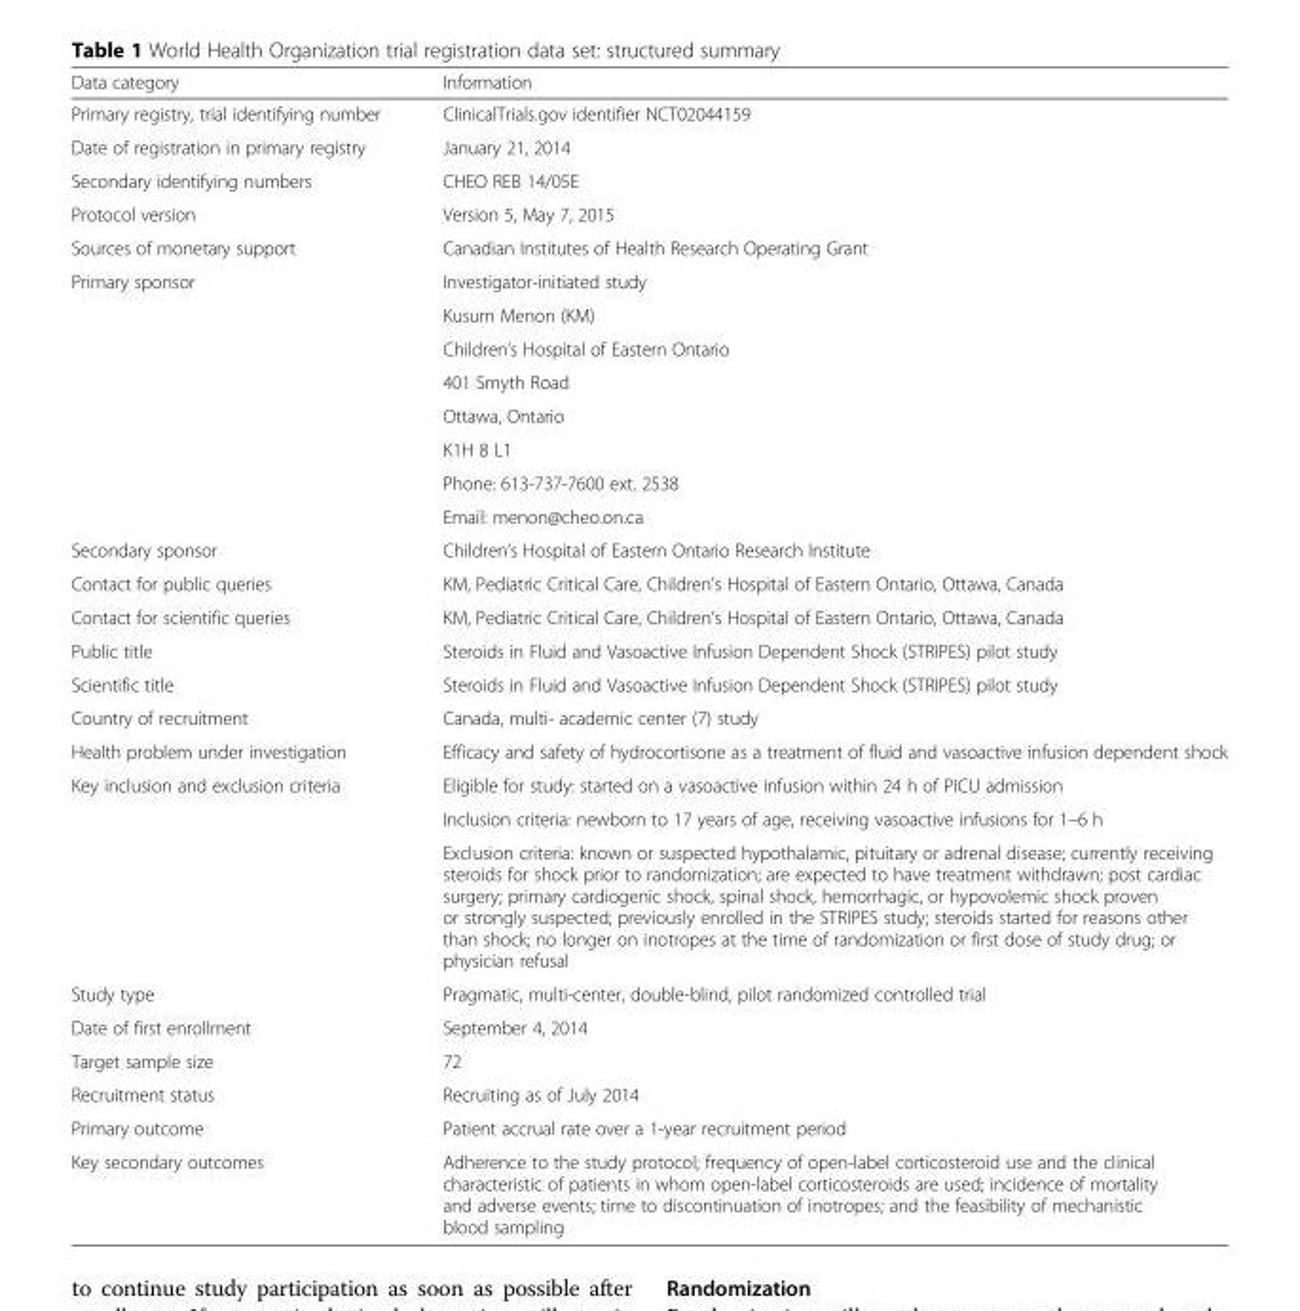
<table><thead><tr><td>Data category</td><td>Information</td></tr></thead><tbody><tr><td>Primary registry, trial identifying number</td><td>ClinicalTrials.gov identifier NCT02044159</td></tr><tr><td>Date of registration in primary registry</td><td>January 21, 2014</td></tr><tr><td>Secondary identifying numbers</td><td>CHEO REB 14/05E</td></tr><tr><td>Protocol version</td><td>Version 5, May 7, 2015</td></tr><tr><td>Sources of monetary support</td><td>Canadian Institutes of Health Research Operating Grant</td></tr><tr><td rowspan="8">Primary sponsor</td><td>Investigator-initiated study</td></tr><tr><td>Kusum Menon (KM)</td></tr><tr><td>Children’s Hospital of Eastern Ontario</td></tr><tr><td>401 Smyth Road</td></tr><tr><td>Ottawa, Ontario</td></tr><tr><td>K1H 8 L1</td></tr><tr><td>Phone: 613-737-7600 ext. 2538</td></tr><tr><td>Email: menon@cheo.on.ca</td></tr><tr><td>Secondary sponsor</td><td>Children’s Hospital of Eastern Ontario Research Institute</td></tr><tr><td>Contact for public queries</td><td>KM, Pediatric Critical Care, Children’s Hospital of Eastern Ontario, Ottawa, Canada</td></tr><tr><td>Contact for scientific queries</td><td>KM, Pediatric Critical Care, Children’s Hospital of Eastern Ontario, Ottawa, Canada</td></tr><tr><td>Public title</td><td>Steroids in Fluid and Vasoactive Infusion Dependent Shock (STRIPES) pilot study</td></tr><tr><td>Scientific title</td><td>Steroids in Fluid and Vasoactive Infusion Dependent Shock (STRIPES) pilot study</td></tr><tr><td>Country of recruitment</td><td>Canada, multi- academic center (7) study</td></tr><tr><td>Health problem under investigation</td><td>Efficacy and safety of hydrocortisone as a treatment of fluid and vasoactive infusion dependent shock</td></tr><tr><td rowspan="3">Key inclusion and exclusion criteria</td><td>Eligible for study: started on a vasoactive infusion within 24 h of PICU admission</td></tr><tr><td>Inclusion criteria: newborn to 17 years of age, receiving vasoactive infusions for 1–6 h</td></tr><tr><td>Exclusion criteria: known or suspected hypothalamic, pituitary or adrenal disease; currently receiving steroids for shock prior to randomization; are expected to have treatment withdrawn; post cardiac surgery; primary cardiogenic shock, spinal shock, hemorrhagic, or hypovolemic shock proven or strongly suspected; previously enrolled in the STRIPES study; steroids started for reasons other than shock; no longer on inotropes at the time of randomization or first dose of study drug; or physician refusal</td></tr><tr><td>Study type</td><td>Pragmatic, multi-center, double-blind, pilot randomized controlled trial</td></tr><tr><td>Date of first enrollment</td><td>September 4, 2014</td></tr><tr><td>Target sample size</td><td>72</td></tr><tr><td>Recruitment status</td><td>Recruiting as of July 2014</td></tr><tr><td>Primary outcome</td><td>Patient accrual rate over a 1-year recruitment period</td></tr><tr><td>Key secondary outcomes</td><td>Adherence to the study protocol; frequency of open-label corticosteroid use and the clinical characteristic of patients in whom open-label corticosteroids are used; incidence of mortality and adverse events; time to discontinuation of inotropes; and the feasibility of mechanistic blood sampling</td></tr></tbody></table>